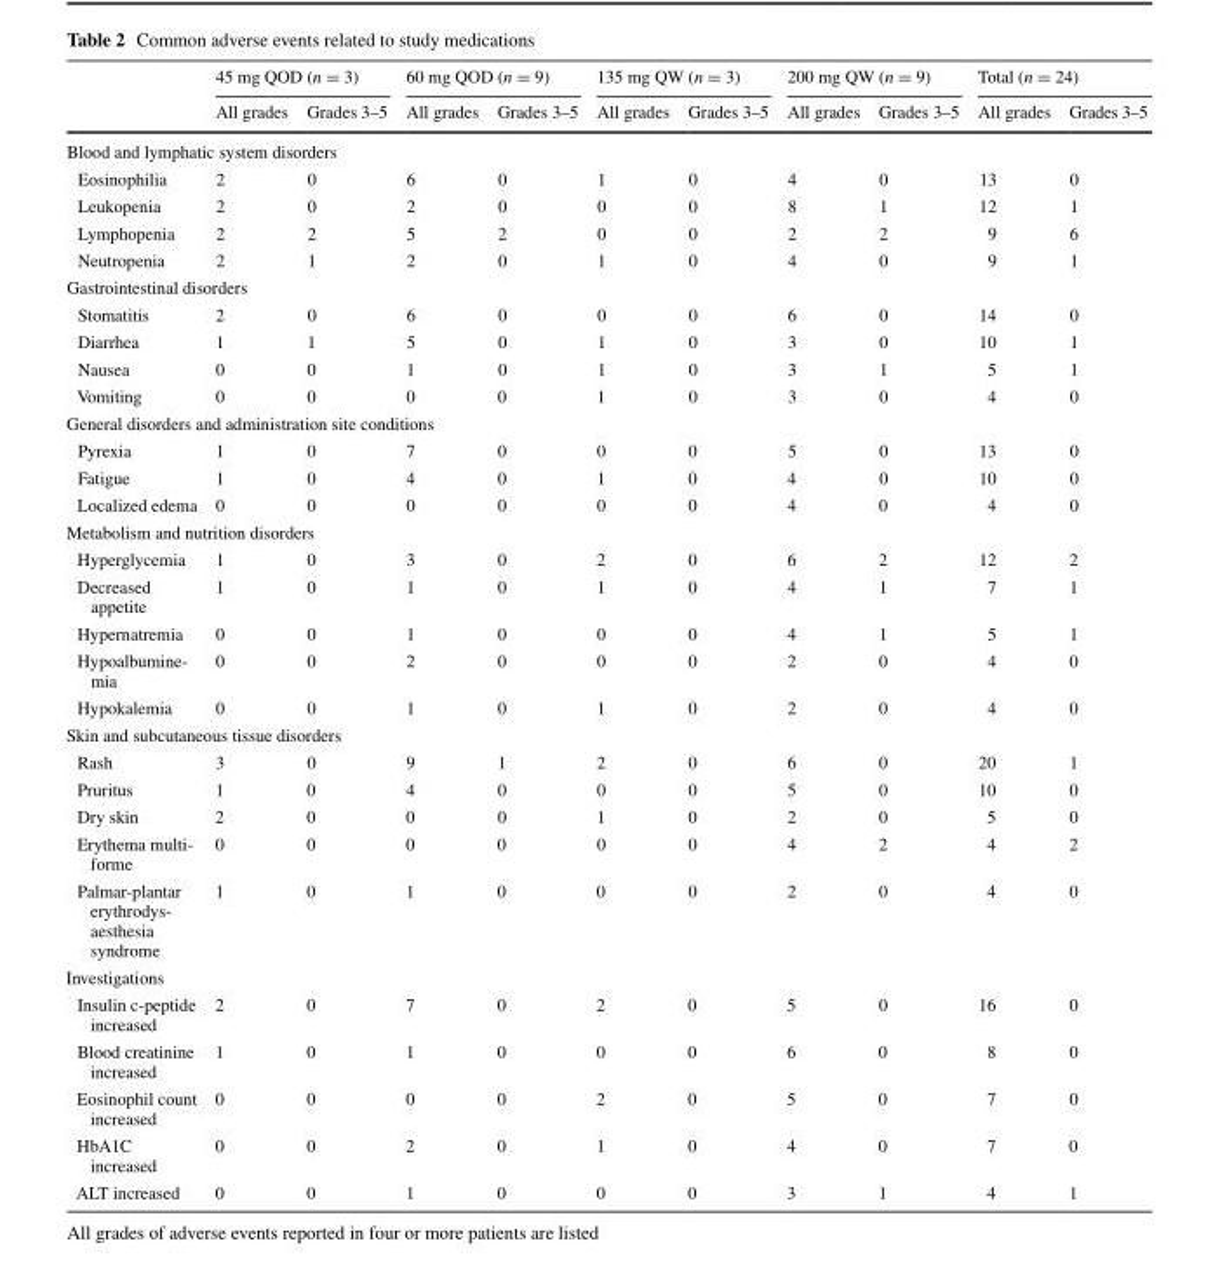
<table><thead><tr><td rowspan="2"></td><td colspan="2">45 mg QOD (n = 3)</td><td colspan="2">60 mg QOD (n = 9)</td><td colspan="2">135 mg QW (n = 3)</td><td colspan="2">200 mg QW (n = 9)</td><td colspan="2">Total (n = 24)</td></tr><tr><td>All grades</td><td>Grades 3–5</td><td>All grades</td><td>Grades 3–5</td><td>All grades</td><td>Grades 3–5</td><td>All grades</td><td>Grades 3–5</td><td>All grades</td><td>Grades 3–5</td></tr></thead><tbody><tr><td colspan="11">Blood and lymphatic system disorders</td></tr><tr><td>Eosinophilia</td><td>2</td><td>0</td><td>6</td><td>0</td><td>1</td><td>0</td><td>4</td><td>0</td><td>13</td><td>0</td></tr><tr><td>Leukopenia</td><td>2</td><td>0</td><td>2</td><td>0</td><td>0</td><td>0</td><td>8</td><td>1</td><td>12</td><td>1</td></tr><tr><td>Lymphopenia</td><td>2</td><td>2</td><td>5</td><td>2</td><td>0</td><td>0</td><td>2</td><td>2</td><td>9</td><td>6</td></tr><tr><td>Neutropenia</td><td>2</td><td>1</td><td>2</td><td>0</td><td>1</td><td>0</td><td>4</td><td>0</td><td>9</td><td>1</td></tr><tr><td colspan="11">Gastrointestinal disorders</td></tr><tr><td>Stomatitis</td><td>2</td><td>0</td><td>6</td><td>0</td><td>0</td><td>0</td><td>6</td><td>0</td><td>14</td><td>0</td></tr><tr><td>Diarrhea</td><td>1</td><td>1</td><td>5</td><td>0</td><td>1</td><td>0</td><td>3</td><td>0</td><td>10</td><td>1</td></tr><tr><td>Nausea</td><td>0</td><td>0</td><td>1</td><td>0</td><td>1</td><td>0</td><td>3</td><td>1</td><td>5</td><td>1</td></tr><tr><td>Vomiting</td><td>0</td><td>0</td><td>0</td><td>0</td><td>1</td><td>0</td><td>3</td><td>0</td><td>4</td><td>0</td></tr><tr><td colspan="11">General disorders and administration site conditions</td></tr><tr><td>Pyrexia</td><td>1</td><td>0</td><td>7</td><td>0</td><td>0</td><td>0</td><td>5</td><td>0</td><td>13</td><td>0</td></tr><tr><td>Fatigue</td><td>1</td><td>0</td><td>4</td><td>0</td><td>1</td><td>0</td><td>4</td><td>0</td><td>10</td><td>0</td></tr><tr><td>Localized edema</td><td>0</td><td>0</td><td>0</td><td>0</td><td>0</td><td>0</td><td>4</td><td>0</td><td>4</td><td>0</td></tr><tr><td colspan="11">Metabolism and nutrition disorders</td></tr><tr><td>Hyperglycemia</td><td>1</td><td>0</td><td>3</td><td>0</td><td>2</td><td>0</td><td>6</td><td>2</td><td>12</td><td>2</td></tr><tr><td>Decreased appetite</td><td>1</td><td>0</td><td>1</td><td>0</td><td>1</td><td>0</td><td>4</td><td>1</td><td>7</td><td>1</td></tr><tr><td>Hypernatremia</td><td>0</td><td>0</td><td>1</td><td>0</td><td>0</td><td>0</td><td>4</td><td>1</td><td>5</td><td>1</td></tr><tr><td>Hypoalbumine- mia</td><td>0</td><td>0</td><td>2</td><td>0</td><td>0</td><td>0</td><td>2</td><td>0</td><td>4</td><td>0</td></tr><tr><td>Hypokalemia</td><td>0</td><td>0</td><td>1</td><td>0</td><td>1</td><td>0</td><td>2</td><td>0</td><td>4</td><td>0</td></tr><tr><td colspan="11">Skin and subcutaneous tissue disorders</td></tr><tr><td>Rash</td><td>3</td><td>0</td><td>9</td><td>1</td><td>2</td><td>0</td><td>6</td><td>0</td><td>20</td><td>1</td></tr><tr><td>Pruritus</td><td>1</td><td>0</td><td>4</td><td>0</td><td>0</td><td>0</td><td>5</td><td>0</td><td>10</td><td>0</td></tr><tr><td>Dry skin</td><td>2</td><td>0</td><td>0</td><td>0</td><td>1</td><td>0</td><td>2</td><td>0</td><td>5</td><td>0</td></tr><tr><td>Erythema multi- forme</td><td>0</td><td>0</td><td>0</td><td>0</td><td>0</td><td>0</td><td>4</td><td>2</td><td>4</td><td>2</td></tr><tr><td>Palmar-plantar erythrodys- aesthesia syndrome</td><td>1</td><td>0</td><td>1</td><td>0</td><td>0</td><td>0</td><td>2</td><td>0</td><td>4</td><td>0</td></tr><tr><td colspan="11">Investigations</td></tr><tr><td>Insulin c-peptide increased</td><td>2</td><td>0</td><td>7</td><td>0</td><td>2</td><td>0</td><td>5</td><td>0</td><td>16</td><td>0</td></tr><tr><td>Blood creatinine increased</td><td>1</td><td>0</td><td>1</td><td>0</td><td>0</td><td>0</td><td>6</td><td>0</td><td>8</td><td>0</td></tr><tr><td>Eosinophil count increased</td><td>0</td><td>0</td><td>0</td><td>0</td><td>2</td><td>0</td><td>5</td><td>0</td><td>7</td><td>0</td></tr><tr><td>HbA1C increased</td><td>0</td><td>0</td><td>2</td><td>0</td><td>1</td><td>0</td><td>4</td><td>0</td><td>7</td><td>0</td></tr><tr><td>ALT increased</td><td>0</td><td>0</td><td>1</td><td>0</td><td>0</td><td>0</td><td>3</td><td>1</td><td>4</td><td>1</td></tr></tbody></table>